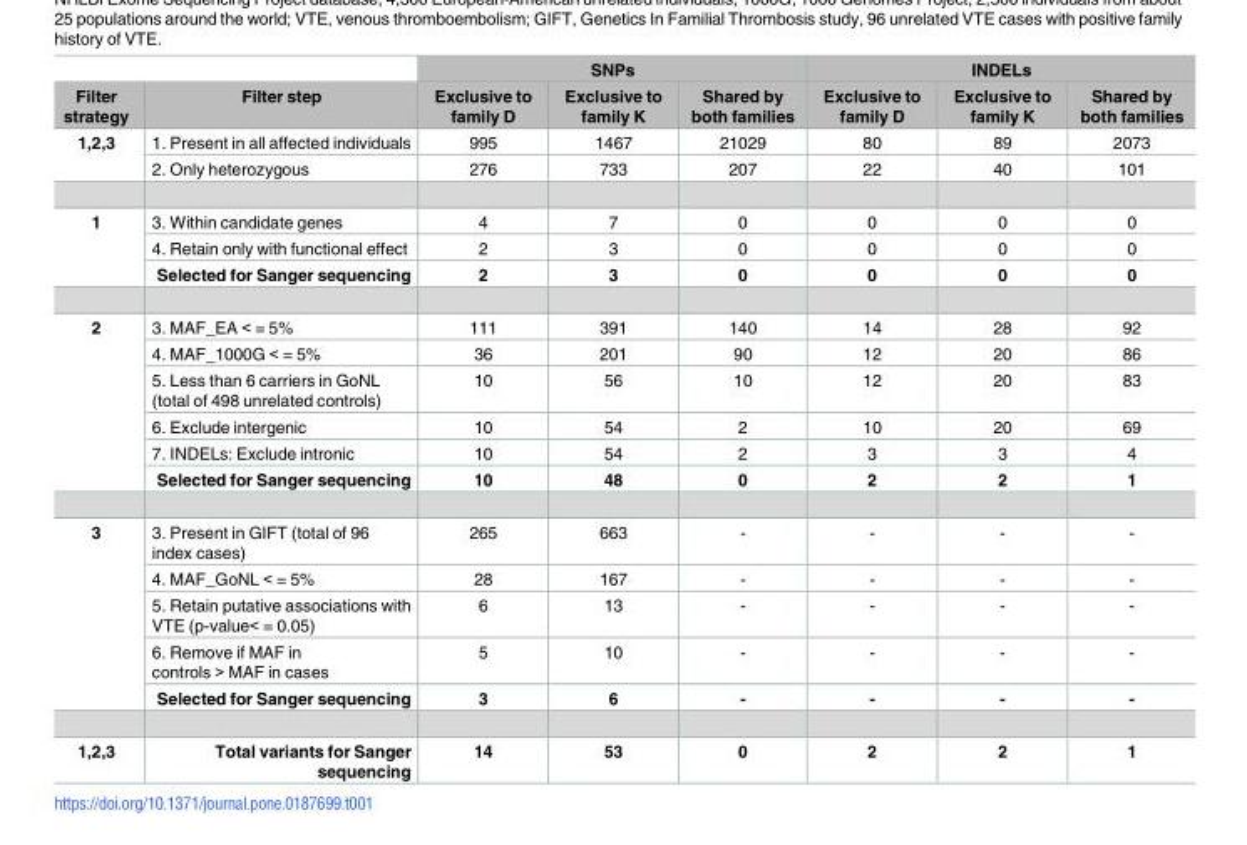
<table><thead><tr><td rowspan="2">Filter strategy</td><td rowspan="2">Filter step</td><td colspan="3">SNPs</td><td colspan="3">INDELs</td></tr><tr><td>Exclusive to family D</td><td>Exclusive to family K</td><td>Shared by both families</td><td>Exclusive to family D</td><td>Exclusive to family K</td><td>Shared by both families</td></tr></thead><tbody><tr><td rowspan="2">1,2,3</td><td>1. Present in all affected individuals</td><td>995</td><td>1467</td><td>21029</td><td>80</td><td>89</td><td>2073</td></tr><tr><td>2. Only heterozygous</td><td>276</td><td>733</td><td>207</td><td>22</td><td>40</td><td>101</td></tr><tr><td rowspan="3">1</td><td>3. Within candidate genes</td><td>4</td><td>7</td><td>0</td><td>0</td><td>0</td><td>0</td></tr><tr><td>4. Retain only with functional effect</td><td>2</td><td>3</td><td>0</td><td>0</td><td>0</td><td>0</td></tr><tr><td>Selected for Sanger sequencing</td><td>2</td><td>3</td><td>0</td><td>0</td><td>0</td><td>0</td></tr><tr><td rowspan="6">2</td><td>3. MAF_EA &lt; = 5%</td><td>111</td><td>391</td><td>140</td><td>14</td><td>28</td><td>92</td></tr><tr><td>4. MAF_1000G &lt; = 5%</td><td>36</td><td>201</td><td>90</td><td>12</td><td>20</td><td>86</td></tr><tr><td>5. Less than 6 carriers in GoNL (total of 498 unrelated controls)</td><td>10</td><td>56</td><td>10</td><td>12</td><td>20</td><td>83</td></tr><tr><td>6. Exclude intergenic</td><td>10</td><td>54</td><td>2</td><td>10</td><td>20</td><td>69</td></tr><tr><td>7. INDELs: Exclude intronic</td><td>10</td><td>54</td><td>2</td><td>3</td><td>3</td><td>4</td></tr><tr><td>Selected for Sanger sequencing</td><td>10</td><td>48</td><td>0</td><td>2</td><td>2</td><td>1</td></tr><tr><td rowspan="5">3</td><td>3. Present in GIFT (total of 96 index cases)</td><td>265</td><td>663</td><td>-</td><td>-</td><td>-</td><td>-</td></tr><tr><td>4. MAF_GoNL &lt; = 5%</td><td>28</td><td>167</td><td>-</td><td>-</td><td>-</td><td>-</td></tr><tr><td>5. Retain putative associations with VTE (p-value&lt; = 0.05)</td><td>6</td><td>13</td><td>-</td><td>-</td><td>-</td><td>-</td></tr><tr><td>6. Remove if MAF in controls &gt; MAF in cases</td><td>5</td><td>10</td><td>-</td><td>-</td><td>-</td><td>-</td></tr><tr><td>Selected for Sanger sequencing</td><td>3</td><td>6</td><td>-</td><td>-</td><td>-</td><td>-</td></tr><tr><td>1,2,3</td><td>Total variants for Sanger sequencing</td><td>14</td><td>53</td><td>0</td><td>2</td><td>2</td><td>1</td></tr></tbody></table>